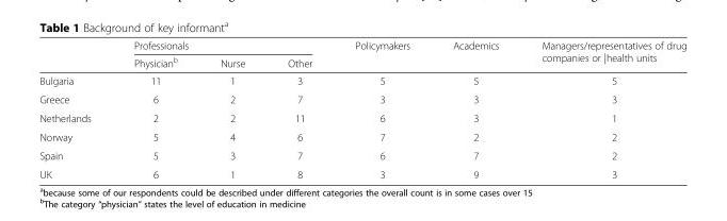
<table><thead><tr><td rowspan="2"></td><td colspan="3">Professionals</td><td rowspan="2">Policymakers</td><td rowspan="2">Academics</td><td rowspan="2">Managers/representatives of drug companies or |health units</td></tr><tr><td>Physician<sup>b</sup></td><td>Nurse</td><td>Other</td></tr></thead><tbody><tr><td>Bulgaria</td><td>11</td><td>1</td><td>3</td><td>5</td><td>5</td><td>5</td></tr><tr><td>Greece</td><td>6</td><td>2</td><td>7</td><td>3</td><td>3</td><td>3</td></tr><tr><td>Netherlands</td><td>2</td><td>2</td><td>11</td><td>6</td><td>3</td><td>1</td></tr><tr><td>Norway</td><td>5</td><td>4</td><td>6</td><td>7</td><td>2</td><td>2</td></tr><tr><td>Spain</td><td>5</td><td>3</td><td>7</td><td>6</td><td>7</td><td>2</td></tr><tr><td>UK</td><td>6</td><td>1</td><td>8</td><td>3</td><td>9</td><td>3</td></tr></tbody></table>